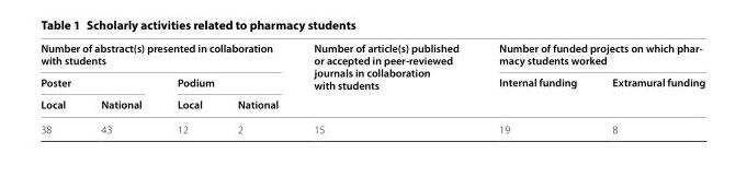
<table><thead><tr><td colspan="4">Number of abstract(s) presented in collaboration with students</td><td rowspan="3">Number of article(s) published or accepted in peer-reviewed journals in collaboration with students</td><td colspan="2">Number of funded projects on which phar- macy students worked</td></tr><tr><td colspan="2">Poster</td><td colspan="2">Podium</td><td rowspan="2">Internal funding</td><td rowspan="2">Extramural funding</td></tr><tr><td>Local</td><td>National</td><td>Local</td><td>National</td></tr></thead><tbody><tr><td>38</td><td>43</td><td>12</td><td>2</td><td>15</td><td>19</td><td>8</td></tr></tbody></table>